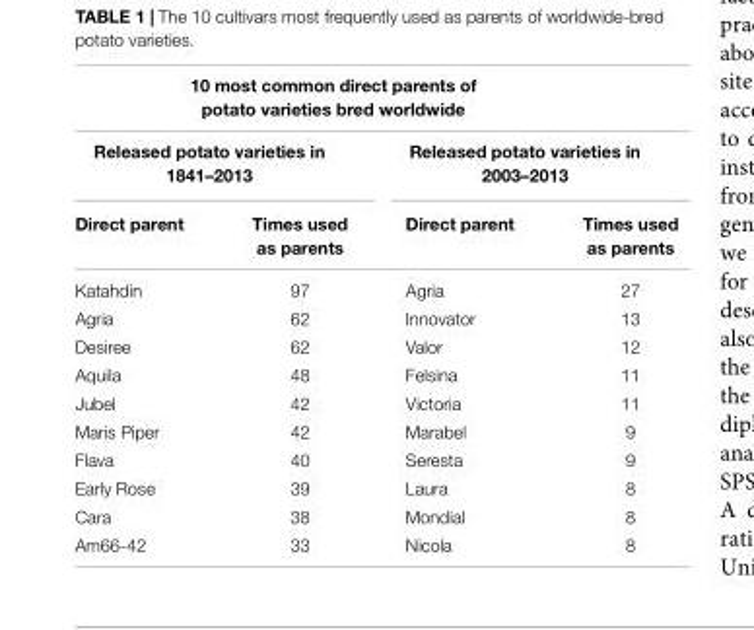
<table><thead><tr><td colspan="4">10 most common direct parents of potato varieties bred worldwide</td></tr><tr><td colspan="2">Released potato varieties in 1841–2013</td><td colspan="2">Released potato varieties in 2003–2013</td></tr><tr><td>Direct parent</td><td>Times used as parents</td><td>Direct parent</td><td>Times used as parents</td></tr></thead><tbody><tr><td>Katahdin</td><td>97</td><td>Agria</td><td>27</td></tr><tr><td>Agria</td><td>62</td><td>Innovator</td><td>13</td></tr><tr><td>Desiree</td><td>62</td><td>Valor</td><td>12</td></tr><tr><td>Aquila</td><td>48</td><td>Felsina</td><td>11</td></tr><tr><td>Jubel</td><td>42</td><td>Victoria</td><td>11</td></tr><tr><td>Maris Piper</td><td>42</td><td>Marabel</td><td>9</td></tr><tr><td>Flava</td><td>40</td><td>Seresta</td><td>9</td></tr><tr><td>Early Rose</td><td>39</td><td>Laura</td><td>8</td></tr><tr><td>Cara</td><td>38</td><td>Mondial</td><td>8</td></tr><tr><td>Am66-42</td><td>33</td><td>Nicola</td><td>8</td></tr></tbody></table>